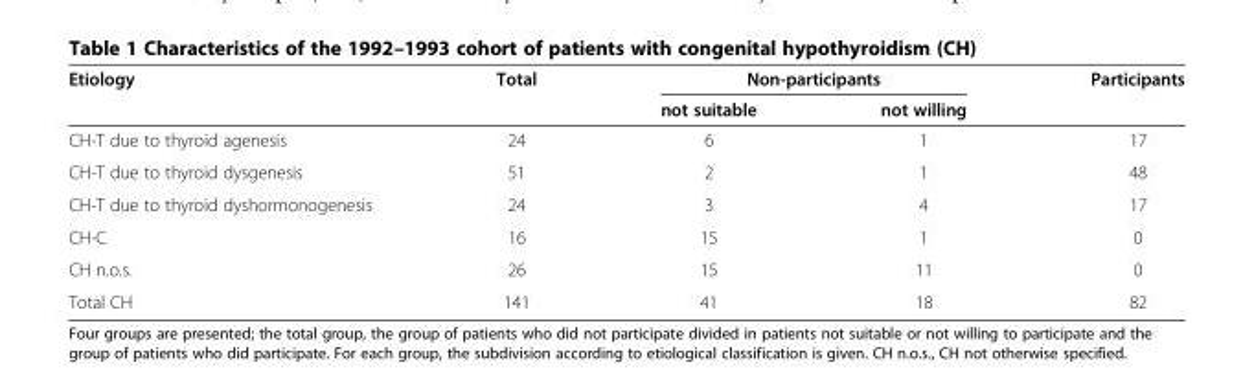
<table><thead><tr><td rowspan="2">Etiology</td><td rowspan="2">Total</td><td colspan="2">Non-participants</td><td rowspan="2">Participants</td></tr><tr><td>not suitable</td><td>not willing</td></tr></thead><tbody><tr><td>CH-T due to thyroid agenesis</td><td>24</td><td>6</td><td>1</td><td>17</td></tr><tr><td>CH-T due to thyroid dysgenesis</td><td>51</td><td>2</td><td>1</td><td>48</td></tr><tr><td>CH-T due to thyroid dyshormonogenesis</td><td>24</td><td>3</td><td>4</td><td>17</td></tr><tr><td>CH-C</td><td>16</td><td>15</td><td>1</td><td>0</td></tr><tr><td>CH n.o.s.</td><td>26</td><td>15</td><td>11</td><td>0</td></tr><tr><td>Total CH</td><td>141</td><td>41</td><td>18</td><td>82</td></tr></tbody></table>